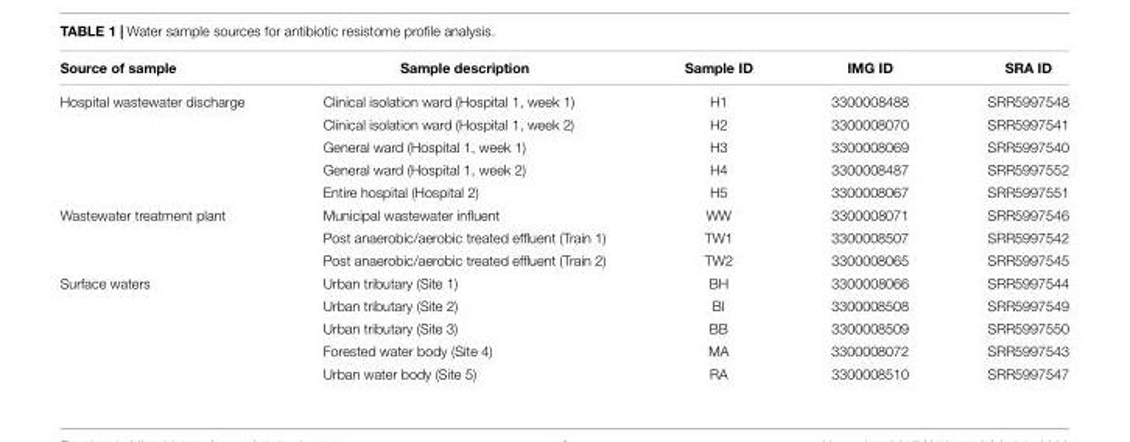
<table><thead><tr><td>Source of sample</td><td>Sample description</td><td>Sample ID</td><td>IMG ID</td><td>SRA ID</td></tr></thead><tbody><tr><td rowspan="5">Hospital wastewater discharge</td><td>Clinical isolation ward (Hospital 1, week 1)</td><td>H1</td><td>3300008488</td><td>SRR5997548</td></tr><tr><td>Clinical isolation ward (Hospital 1, week 2)</td><td>H2</td><td>3300008070</td><td>SRR5997541</td></tr><tr><td>General ward (Hospital 1, week 1)</td><td>H3</td><td>3300008069</td><td>SRR5997540</td></tr><tr><td>General ward (Hospital 1, week 2)</td><td>H4</td><td>3300008487</td><td>SRR5997552</td></tr><tr><td>Entire hospital (Hospital 2)</td><td>H5</td><td>3300008067</td><td>SRR5997551</td></tr><tr><td rowspan="3">Wastewater treatment plant</td><td>Municipal wastewater influent</td><td>WW</td><td>3300008071</td><td>SRR5997546</td></tr><tr><td>Post anaerobic/aerobic treated effluent (Train 1)</td><td>TW1</td><td>3300008507</td><td>SRR5997542</td></tr><tr><td>Post anaerobic/aerobic treated effluent (Train 2)</td><td>TW2</td><td>3300008065</td><td>SRR5997545</td></tr><tr><td rowspan="5">Surface waters</td><td>Urban tributary (Site 1)</td><td>BH</td><td>3300008066</td><td>SRR5997544</td></tr><tr><td>Urban tributary (Site 2)</td><td>BI</td><td>3300008508</td><td>SRR5997549</td></tr><tr><td>Urban tributary (Site 3)</td><td>BB</td><td>3300008509</td><td>SRR5997550</td></tr><tr><td>Forested water body (Site 4)</td><td>MA</td><td>3300008072</td><td>SRR5997543</td></tr><tr><td>Urban water body (Site 5)</td><td>RA</td><td>3300008510</td><td>SRR5997547</td></tr></tbody></table>